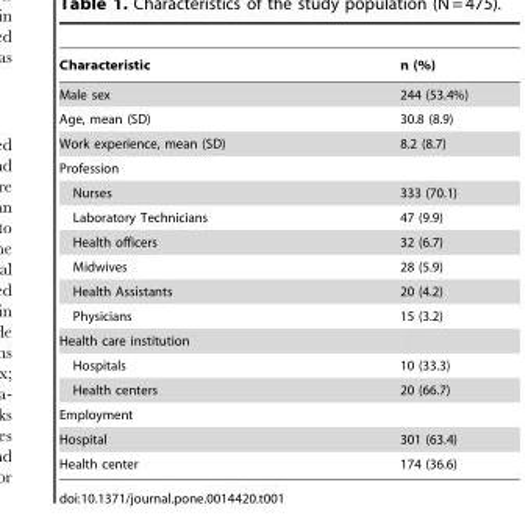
<table><thead><tr><td>Characteristic</td><td>n (%)</td></tr></thead><tbody><tr><td>Male sex</td><td>244 (53.4%)</td></tr><tr><td>Age, mean (SD)</td><td>30.8 (8.9)</td></tr><tr><td>Work experience, mean (SD)</td><td>8.2 (8.7)</td></tr><tr><td colspan="2">Profession</td></tr><tr><td>Nurses</td><td>333 (70.1)</td></tr><tr><td>Laboratory Technicians</td><td>47 (9.9)</td></tr><tr><td>Health officers</td><td>32 (6.7)</td></tr><tr><td>Midwives</td><td>28 (5.9)</td></tr><tr><td>Health Assistants</td><td>20 (4.2)</td></tr><tr><td>Physicians</td><td>15 (3.2)</td></tr><tr><td colspan="2">Health care institution</td></tr><tr><td>Hospitals</td><td>10 (33.3)</td></tr><tr><td>Health centers</td><td>20 (66.7)</td></tr><tr><td colspan="2">Employment</td></tr><tr><td>Hospital</td><td>301 (63.4)</td></tr><tr><td>Health center</td><td>174 (36.6)</td></tr></tbody></table>